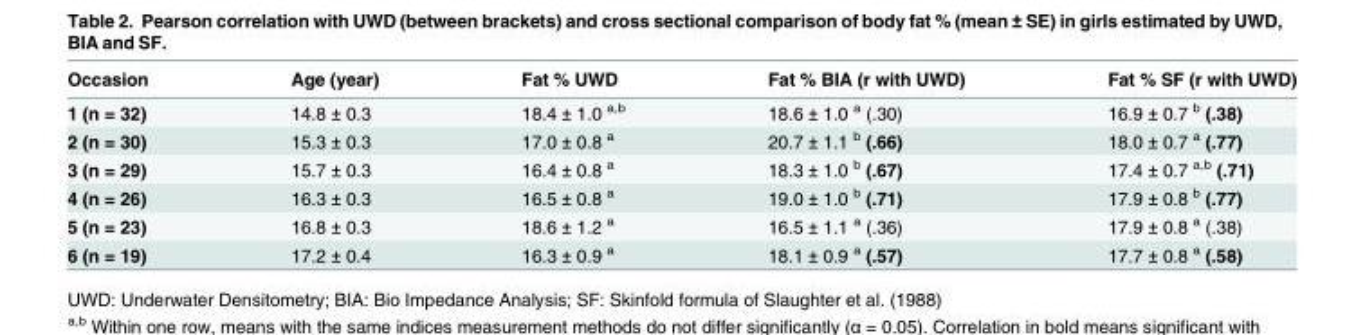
<table><thead><tr><td>Occasion</td><td>Age (year)</td><td>Fat % UWD</td><td>Fat % BIA (r with UWD)</td><td>Fat % SF (r with UWD)</td></tr></thead><tbody><tr><td>1 (n = 32)</td><td>14.8 ± 0.3</td><td>18.4 ± 1.0 <sup>a,b</sup></td><td>18.6 ± 1.0 <sup>a</sup> (.30)</td><td>16.9 ± 0.7 <sup>b</sup> (.38)</td></tr><tr><td>2 (n = 30)</td><td>15.3 ± 0.3</td><td>17.0 ± 0.8 <sup>a</sup></td><td>20.7 ± 1.1 <sup>b</sup> (.66)</td><td>18.0 ± 0.7 <sup>a</sup> (.77)</td></tr><tr><td>3 (n = 29)</td><td>15.7 ± 0.3</td><td>16.4 ± 0.8 <sup>a</sup></td><td>18.3 ± 1.0 <sup>b</sup> (.67)</td><td>17.4 ± 0.7 <sup>a,b</sup> (.71)</td></tr><tr><td>4 (n = 26)</td><td>16.3 ± 0.3</td><td>16.5 ± 0.8 <sup>a</sup></td><td>19.0 ± 1.0 <sup>b</sup> (.71)</td><td>17.9 ± 0.8 <sup>b</sup> (.77)</td></tr><tr><td>5 (n = 23)</td><td>16.8 ± 0.3</td><td>18.6 ± 1.2 <sup>a</sup></td><td>16.5 ± 1.1 <sup>a</sup> (.36)</td><td>17.9 ± 0.8 <sup>a</sup> (.38)</td></tr><tr><td>6 (n = 19)</td><td>17.2 ± 0.4</td><td>16.3 ± 0.9 <sup>a</sup></td><td>18.1 ± 0.9 <sup>a</sup> (.57)</td><td>17.7 ± 0.8 <sup>a</sup> (.58)</td></tr></tbody></table>